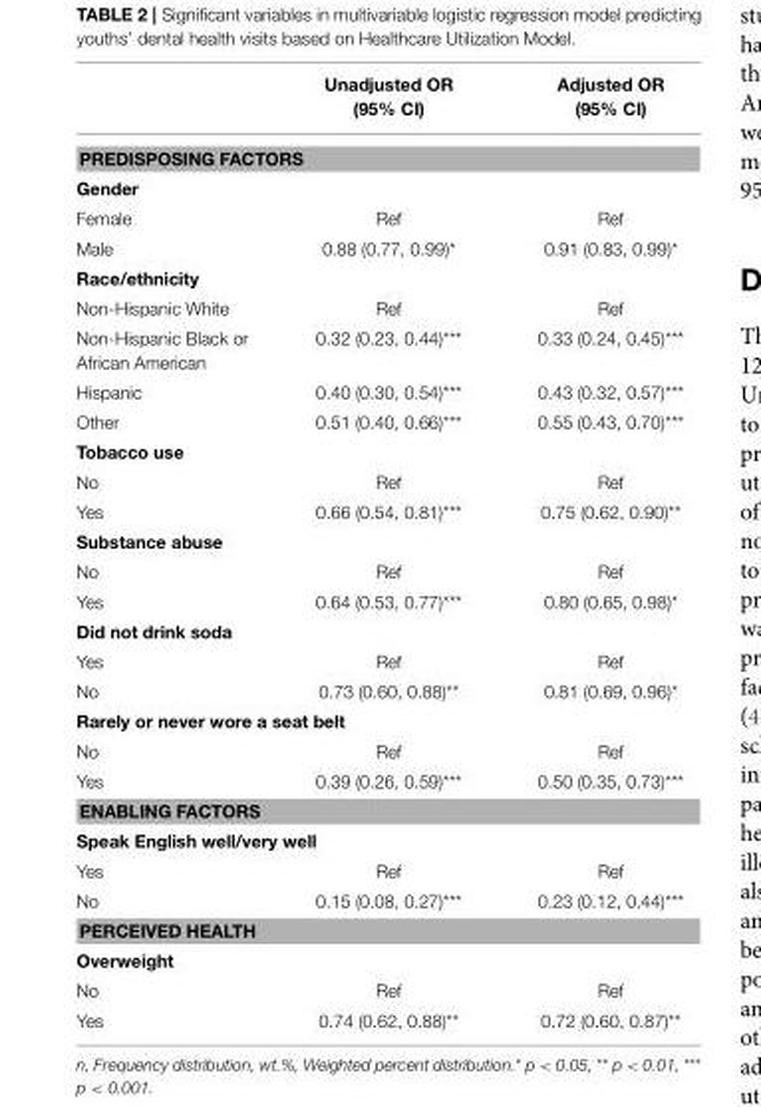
<table><thead><tr><td></td><td>Unadjusted OR (95% CI)</td><td>Adjusted OR (95% CI)</td></tr></thead><tbody><tr><td colspan="3">PREDISPOSING FACTORS</td></tr><tr><td colspan="3">Gender</td></tr><tr><td>Female</td><td>Ref</td><td>Ref</td></tr><tr><td>Male</td><td>0.88 (0.77, 0.99)*</td><td>0.91 (0.83, 0.99)*</td></tr><tr><td colspan="3">Race/ethnicity</td></tr><tr><td>Non-Hispanic White</td><td>Ref</td><td>Ref</td></tr><tr><td>Non-Hispanic Black or African American</td><td>0.32 (0.23, 0.44)***</td><td>0.33 (0.24, 0.45)***</td></tr><tr><td>Hispanic</td><td>0.40 (0.30, 0.54)***</td><td>0.43 (0.32, 0.57)***</td></tr><tr><td>Other</td><td>0.51 (0.40, 0.66)***</td><td>0.55 (0.43, 0.70)***</td></tr><tr><td colspan="3">Tobacco use</td></tr><tr><td>No</td><td>Ref</td><td>Ref</td></tr><tr><td>Yes</td><td>0.66 (0.54, 0.81)***</td><td>0.75 (0.62, 0.90)**</td></tr><tr><td colspan="3">Substance abuse</td></tr><tr><td>No</td><td>Ref</td><td>Ref</td></tr><tr><td>Yes</td><td>0.64 (0.53, 0.77)***</td><td>0.80 (0.65, 0.98)*</td></tr><tr><td colspan="3">Did not drink soda</td></tr><tr><td>Yes</td><td>Ref</td><td>Ref</td></tr><tr><td>No</td><td>0.73 (0.60, 0.88)**</td><td>0.81 (0.69, 0.96)*</td></tr><tr><td colspan="3">Rarely or never wore a seat belt</td></tr><tr><td>No</td><td>Ref</td><td>Ref</td></tr><tr><td>Yes</td><td>0.39 (0.26, 0.59)***</td><td>0.50 (0.35, 0.73)***</td></tr><tr><td colspan="3">ENABLING FACTORS</td></tr><tr><td colspan="3">Speak English well/very well</td></tr><tr><td>Yes</td><td>Ref</td><td>Ref</td></tr><tr><td>No</td><td>0.15 (0.08, 0.27)***</td><td>0.23 (0.12, 0.44)***</td></tr><tr><td colspan="3">PERCEIVED HEALTH</td></tr><tr><td colspan="3">Overweight</td></tr><tr><td>No</td><td>Ref</td><td>Ref</td></tr><tr><td>Yes</td><td>0.74 (0.62, 0.88)**</td><td>0.72 (0.60, 0.87)**</td></tr></tbody></table>